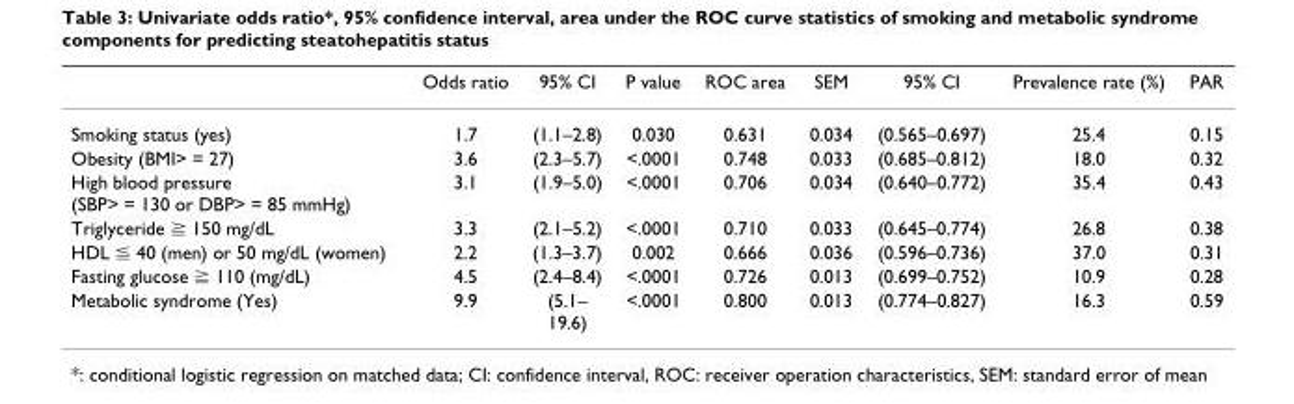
<table><thead><tr><td></td><td>Odds ratio</td><td>95% CI</td><td>P value</td><td>ROC area</td><td>SEM</td><td>95% CI</td><td>Prevalence rate (%)</td><td>PAR</td></tr></thead><tbody><tr><td>Smoking status (yes)</td><td>1.7</td><td>(1.1–2.8)</td><td>0.030</td><td>0.631</td><td>0.034</td><td>(0.565–0.697)</td><td>25.4</td><td>0.15</td></tr><tr><td>Obesity (BMI&gt; = 27)</td><td>3.6</td><td>(2.3–5.7)</td><td>&lt;.0001</td><td>0.748</td><td>0.033</td><td>(0.685–0.812)</td><td>18.0</td><td>0.32</td></tr><tr><td>High blood pressure (SBP&gt; = 130 or DBP&gt; = 85 mmHg)</td><td>3.1</td><td>(1.9–5.0)</td><td>&lt;.0001</td><td>0.706</td><td>0.034</td><td>(0.640–0.772)</td><td>35.4</td><td>0.43</td></tr><tr><td>Triglyceride ≧ 150 mg/dL</td><td>3.3</td><td>(2.1–5.2)</td><td>&lt;.0001</td><td>0.710</td><td>0.033</td><td>(0.645–0.774)</td><td>26.8</td><td>0.38</td></tr><tr><td>HDL ≦ 40 (men) or 50 mg/dL (women)</td><td>2.2</td><td>(1.3–3.7)</td><td>0.002</td><td>0.666</td><td>0.036</td><td>(0.596–0.736)</td><td>37.0</td><td>0.31</td></tr><tr><td>Fasting glucose ≧ 110 (mg/dL)</td><td>4.5</td><td>(2.4–8.4)</td><td>&lt;.0001</td><td>0.726</td><td>0.013</td><td>(0.699–0.752)</td><td>10.9</td><td>0.28</td></tr><tr><td>Metabolic syndrome (Yes)</td><td>9.9</td><td>(5.1– 19.6)</td><td>&lt;.0001</td><td>0.800</td><td>0.013</td><td>(0.774–0.827)</td><td>16.3</td><td>0.59</td></tr></tbody></table>